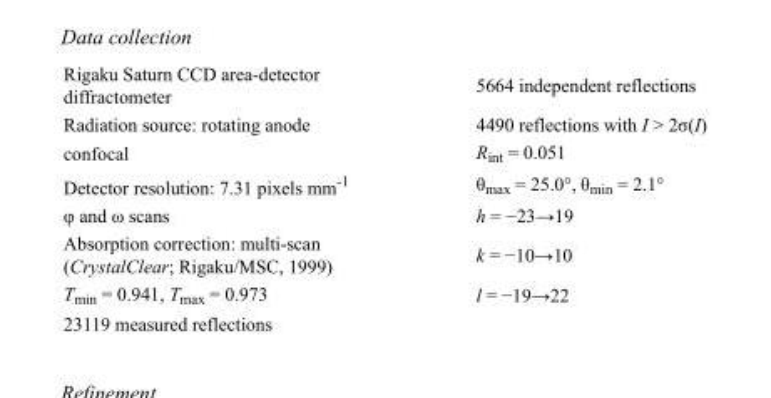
<table><tbody><tr><td>Rigaku Saturn CCD area-detector diffractometer</td><td>5664 independent reflections</td></tr><tr><td>Radiation source: rotating anode</td><td>4490 reflections with I &gt; 2σ(I)</td></tr><tr><td>confocal</td><td>R<sub>int</sub> = 0.051</td></tr><tr><td>Detector resolution: 7.31 pixels mm<sup>-1</sup></td><td>θ<sub>max</sub> = 25.0°, θ<sub>min</sub> = 2.1°</td></tr><tr><td>φ and ω scans</td><td>h = −23→19</td></tr><tr><td>Absorption correction: multi-scan (CrystalClear; Rigaku/MSC, 1999)</td><td>k = −10→10</td></tr><tr><td>T<sub>min</sub> = 0.941, T<sub>max</sub> = 0.973</td><td>l = −19→22</td></tr><tr><td>23119 measured reflections</td><td></td></tr></tbody></table>